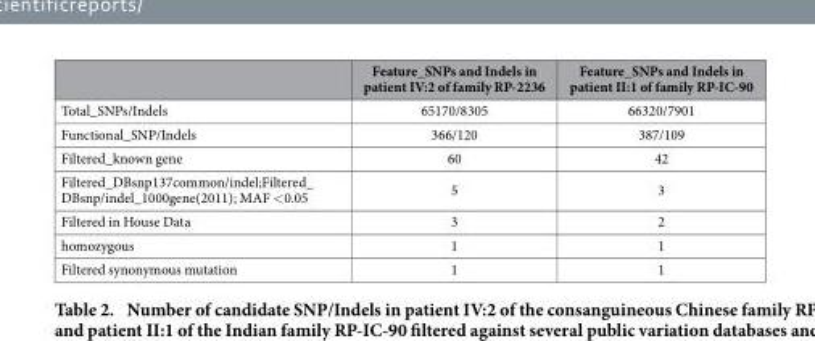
<table><thead><tr><td></td><td>Feature_SNPs and Indels in patient IV:2 of family RP-2236</td><td>Feature_SNPs and Indels in patient II:1 of family RP-IC-90</td></tr></thead><tbody><tr><td>Total_SNPs/Indels</td><td>65170/8305</td><td>66320/7901</td></tr><tr><td>Functional_SNP/Indels</td><td>366/120</td><td>387/109</td></tr><tr><td>Filtered_known gene</td><td>60</td><td>42</td></tr><tr><td>Filtered_DBsnp137common/indel;Filtered_ DBsnp/indel_1000gene(2011); MAF &lt; 0.05</td><td>5</td><td>3</td></tr><tr><td>Filtered in House Data</td><td>3</td><td>2</td></tr><tr><td>homozygous</td><td>1</td><td>1</td></tr><tr><td>Filtered synonymous mutation</td><td>1</td><td>1</td></tr></tbody></table>